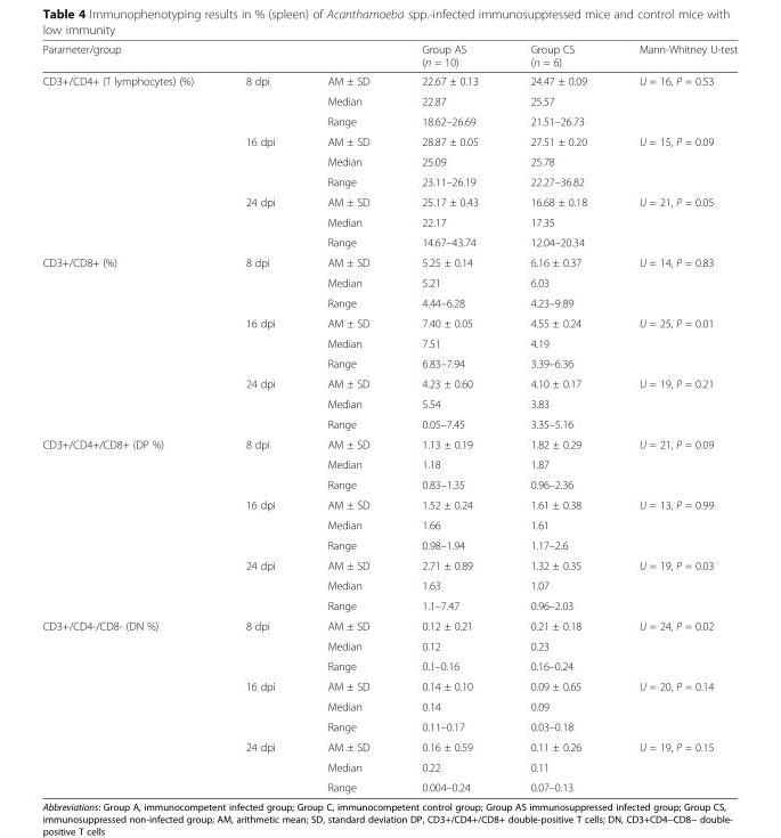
<table><thead><tr><td>Parameter/group</td><td></td><td></td><td>Group AS (n = 10)</td><td>Group CS (n = 6)</td><td>Mann-Whitney U-test</td></tr></thead><tbody><tr><td rowspan="9">CD3+/CD4+ (T lymphocytes) (%)</td><td rowspan="3">8 dpi</td><td>AM ± SD</td><td>22.67 ± 0.13</td><td>24.47 ± 0.09</td><td rowspan="3">U = 16, P = 0.53</td></tr><tr><td>Median</td><td>22.87</td><td>25.57</td></tr><tr><td>Range</td><td>18.62–26.69</td><td>21.51–26.73</td></tr><tr><td rowspan="3">16 dpi</td><td>AM ± SD</td><td>28.87 ± 0.05</td><td>27.51 ± 0.20</td><td rowspan="3">U = 15, P = 0.09</td></tr><tr><td>Median</td><td>25.09</td><td>25.78</td></tr><tr><td>Range</td><td>23.11–26.19</td><td>22.27–36.82</td></tr><tr><td rowspan="3">24 dpi</td><td>AM ± SD</td><td>25.17 ± 0.43</td><td>16.68 ± 0.18</td><td rowspan="3">U = 21, P = 0.05</td></tr><tr><td>Median</td><td>22.17</td><td>17.35</td></tr><tr><td>Range</td><td>14.67–43.74</td><td>12.04–20.34</td></tr><tr><td rowspan="9">CD3+/CD8+ (%)</td><td rowspan="3">8 dpi</td><td>AM ± SD</td><td>5.25 ± 0.14</td><td>6.16 ± 0.37</td><td rowspan="3">U = 14, P = 0.83</td></tr><tr><td>Median</td><td>5.21</td><td>6.03</td></tr><tr><td>Range</td><td>4.44–6.28</td><td>4.23–9.89</td></tr><tr><td rowspan="3">16 dpi</td><td>AM ± SD</td><td>7.40 ± 0.05</td><td>4.55 ± 0.24</td><td rowspan="3">U = 25, P = 0.01</td></tr><tr><td>Median</td><td>7.51</td><td>4.19</td></tr><tr><td>Range</td><td>6.83–7.94</td><td>3.39–6.36</td></tr><tr><td rowspan="3">24 dpi</td><td>AM ± SD</td><td>4.23 ± 0.60</td><td>4.10 ± 0.17</td><td rowspan="3">U = 19, P = 0.21</td></tr><tr><td>Median</td><td>5.54</td><td>3.83</td></tr><tr><td>Range</td><td>0.05–7.45</td><td>3.35–5.16</td></tr><tr><td rowspan="9">CD3+/CD4+/CD8+ (DP %)</td><td rowspan="3">8 dpi</td><td>AM ± SD</td><td>1.13 ± 0.19</td><td>1.82 ± 0.29</td><td rowspan="3">U = 21, P = 0.09</td></tr><tr><td>Median</td><td>1.18</td><td>1.87</td></tr><tr><td>Range</td><td>0.83–1.35</td><td>0.96–2.36</td></tr><tr><td rowspan="3">16 dpi</td><td>AM ± SD</td><td>1.52 ± 0.24</td><td>1.61 ± 0.38</td><td rowspan="3">U = 13, P = 0.99</td></tr><tr><td>Median</td><td>1.66</td><td>1.61</td></tr><tr><td>Range</td><td>0.98–1.94</td><td>1.17–2.6</td></tr><tr><td rowspan="3">24 dpi</td><td>AM ± SD</td><td>2.71 ± 0.89</td><td>1.32 ± 0.35</td><td rowspan="3">U = 19, P = 0.03</td></tr><tr><td>Median</td><td>1.63</td><td>1.07</td></tr><tr><td>Range</td><td>1.1–7.47</td><td>0.96–2.03</td></tr><tr><td rowspan="9">CD3+/CD4-/CD8- (DN %)</td><td rowspan="3">8 dpi</td><td>AM ± SD</td><td>0.12 ± 0.21</td><td>0.21 ± 0.18</td><td rowspan="3">U = 24, P = 0.02</td></tr><tr><td>Median</td><td>0.12</td><td>0.23</td></tr><tr><td>Range</td><td>0.1–0.16</td><td>0.16–0.24</td></tr><tr><td rowspan="3">16 dpi</td><td>AM ± SD</td><td>0.14 ± 0.10</td><td>0.09 ± 0.65</td><td rowspan="3">U = 20, P = 0.14</td></tr><tr><td>Median</td><td>0.14</td><td>0.09</td></tr><tr><td>Range</td><td>0.11–0.17</td><td>0.03–0.18</td></tr><tr><td rowspan="3">24 dpi</td><td>AM ± SD</td><td>0.16 ± 0.59</td><td>0.11 ± 0.26</td><td rowspan="3">U = 19, P = 0.15</td></tr><tr><td>Median</td><td>0.22</td><td>0.11</td></tr><tr><td>Range</td><td>0.004–0.24</td><td>0.07–0.13</td></tr></tbody></table>